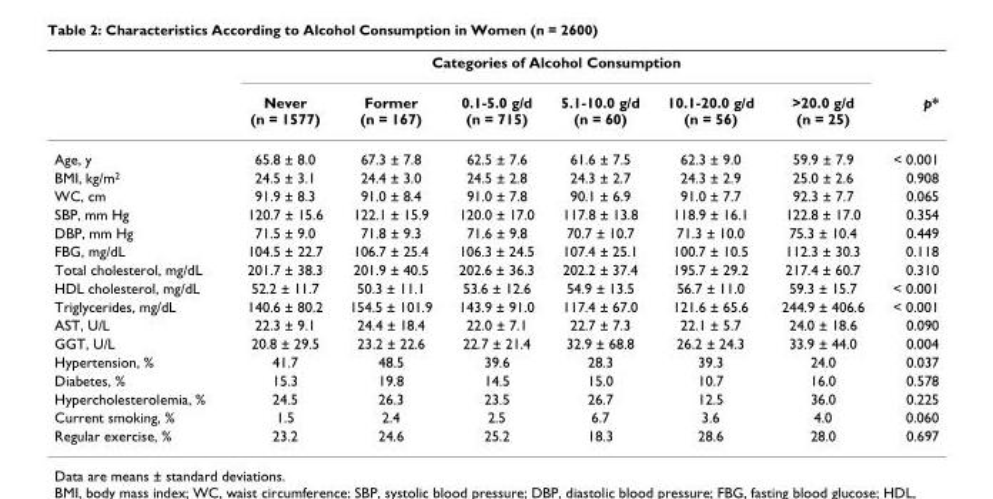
<table><thead><tr><td rowspan="2"></td><td colspan="6">Categories of Alcohol Consumption</td><td rowspan="2">p*</td></tr><tr><td>Never (n = 1577)</td><td>Former (n = 167)</td><td>0.1-5.0 g/d (n = 715)</td><td>5.1-10.0 g/d (n = 60)</td><td>10.1-20.0 g/d (n = 56)</td><td>&gt;20.0 g/d (n = 25)</td></tr></thead><tbody><tr><td>Age, y</td><td>65.8 ± 8.0</td><td>67.3 ± 7.8</td><td>62.5 ± 7.6</td><td>61.6 ± 7.5</td><td>62.3 ± 9.0</td><td>59.9 ± 7.9</td><td>&lt; 0.001</td></tr><tr><td>BMI, kg/m<sup>2</sup></td><td>24.5 ± 3.1</td><td>24.4 ± 3.0</td><td>24.5 ± 2.8</td><td>24.3 ± 2.7</td><td>24.3 ± 2.9</td><td>25.0 ± 2.6</td><td>0.908</td></tr><tr><td>WC, cm</td><td>91.9 ± 8.3</td><td>91.0 ± 8.4</td><td>91.0 ± 7.8</td><td>90.1 ± 6.9</td><td>91.0 ± 7.7</td><td>92.3 ± 7.7</td><td>0.065</td></tr><tr><td>SBP, mm Hg</td><td>120.7 ± 15.6</td><td>122.1 ± 15.9</td><td>120.0 ± 17.0</td><td>117.8 ± 13.8</td><td>118.9 ± 16.1</td><td>122.8 ± 17.0</td><td>0.354</td></tr><tr><td>DBP, mm Hg</td><td>71.5 ± 9.0</td><td>71.8 ± 9.3</td><td>71.6 ± 9.8</td><td>70.7 ± 10.7</td><td>71.3 ± 10.0</td><td>75.3 ± 10.4</td><td>0.449</td></tr><tr><td>FBG, mg/dL</td><td>104.5 ± 22.7</td><td>106.7 ± 25.4</td><td>106.3 ± 24.5</td><td>107.4 ± 25.1</td><td>100.7 ± 10.5</td><td>112.3 ± 30.3</td><td>0.118</td></tr><tr><td>Total cholesterol, mg/dL</td><td>201.7 ± 38.3</td><td>201.9 ± 40.5</td><td>202.6 ± 36.3</td><td>202.2 ± 37.4</td><td>195.7 ± 29.2</td><td>217.4 ± 60.7</td><td>0.310</td></tr><tr><td>HDL cholesterol, mg/dL</td><td>52.2 ± 11.7</td><td>50.3 ± 11.1</td><td>53.6 ± 12.6</td><td>54.9 ± 13.5</td><td>56.7 ± 11.0</td><td>59.3 ± 15.7</td><td>&lt; 0.001</td></tr><tr><td>Triglycerides, mg/dL</td><td>140.6 ± 80.2</td><td>154.5 ± 101.9</td><td>143.9 ± 91.0</td><td>117.4 ± 67.0</td><td>121.6 ± 65.6</td><td>244.9 ± 406.6</td><td>&lt; 0.001</td></tr><tr><td>AST, U/L</td><td>22.3 ± 9.1</td><td>24.4 ± 18.4</td><td>22.0 ± 7.1</td><td>22.7 ± 7.3</td><td>22.1 ± 5.7</td><td>24.0 ± 18.6</td><td>0.090</td></tr><tr><td>GGT, U/L</td><td>20.8 ± 29.5</td><td>23.2 ± 22.6</td><td>22.7 ± 21.4</td><td>32.9 ± 68.8</td><td>26.2 ± 24.3</td><td>33.9 ± 44.0</td><td>0.004</td></tr><tr><td>Hypertension, %</td><td>41.7</td><td>48.5</td><td>39.6</td><td>28.3</td><td>39.3</td><td>24.0</td><td>0.037</td></tr><tr><td>Diabetes, %</td><td>15.3</td><td>19.8</td><td>14.5</td><td>15.0</td><td>10.7</td><td>16.0</td><td>0.578</td></tr><tr><td>Hypercholesterolemia, %</td><td>24.5</td><td>26.3</td><td>23.5</td><td>26.7</td><td>12.5</td><td>36.0</td><td>0.225</td></tr><tr><td>Current smoking, %</td><td>1.5</td><td>2.4</td><td>2.5</td><td>6.7</td><td>3.6</td><td>4.0</td><td>0.060</td></tr><tr><td>Regular exercise, %</td><td>23.2</td><td>24.6</td><td>25.2</td><td>18.3</td><td>28.6</td><td>28.0</td><td>0.697</td></tr></tbody></table>